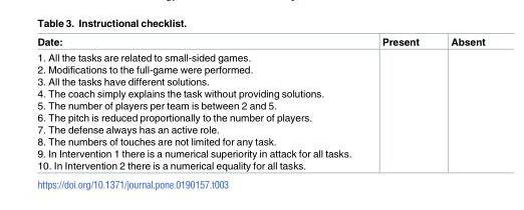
<table><thead><tr><td>Date:</td><td>Present</td><td>Absent</td></tr></thead><tbody><tr><td>1. All the tasks are related to small-sided games. 2. Modifications to the full-game were performed. 3. All the tasks have different solutions. 4. The coach simply explains the task without providing solutions. 5. The number of players per team is between 2 and 5. 6. The pitch is reduced proportionally to the number of players. 7. The defense always has an active role. 8. The numbers of touches are not limited for any task. 9. In Intervention 1 there is a numerical superiority in attack for all tasks. 10. In Intervention 2 there is a numerical equality for all tasks.</td><td></td><td></td></tr></tbody></table>